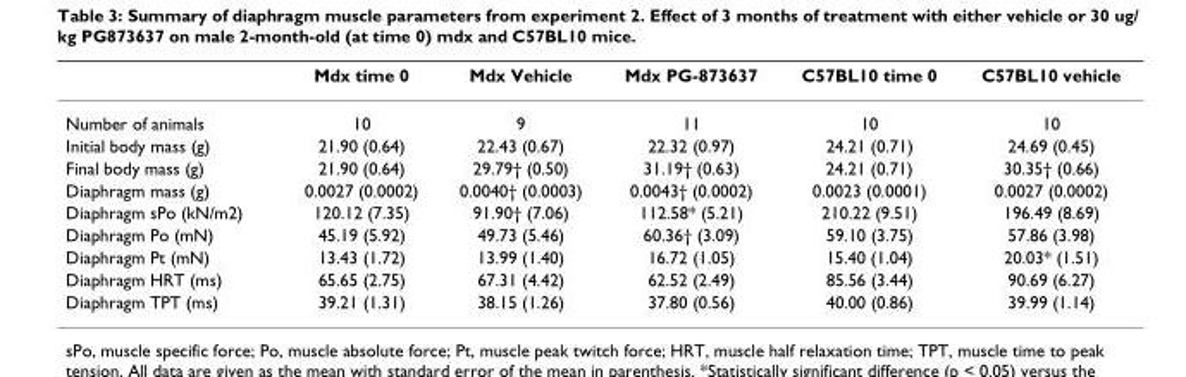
<table><thead><tr><td></td><td>Mdx time 0</td><td>Mdx Vehicle</td><td>Mdx PG-873637</td><td>C57BL10 time 0</td><td>C57BL10 vehicle</td></tr></thead><tbody><tr><td>Number of animals</td><td>10</td><td>9</td><td>11</td><td>10</td><td>10</td></tr><tr><td>Initial body mass (g)</td><td>21.90 (0.64)</td><td>22.43 (0.67)</td><td>22.32 (0.97)</td><td>24.21 (0.71)</td><td>24.69 (0.45)</td></tr><tr><td>Final body mass (g)</td><td>21.90 (0.64)</td><td>29.79† (0.50)</td><td>31.19† (0.63)</td><td>24.21 (0.71)</td><td>30.35† (0.66)</td></tr><tr><td>Diaphragm mass (g)</td><td>0.0027 (0.0002)</td><td>0.0040† (0.0003)</td><td>0.0043† (0.0002)</td><td>0.0023 (0.0001)</td><td>0.0027 (0.0002)</td></tr><tr><td>Diaphragm sPo (kN/m2)</td><td>120.12 (7.35)</td><td>91.90† (7.06)</td><td>112.58* (5.21)</td><td>210.22 (9.51)</td><td>196.49 (8.69)</td></tr><tr><td>Diaphragm Po (mN)</td><td>45.19 (5.92)</td><td>49.73 (5.46)</td><td>60.36† (3.09)</td><td>59.10 (3.75)</td><td>57.86 (3.98)</td></tr><tr><td>Diaphragm Pt (mN)</td><td>13.43 (1.72)</td><td>13.99 (1.40)</td><td>16.72 (1.05)</td><td>15.40 (1.04)</td><td>20.03* (1.51)</td></tr><tr><td>Diaphragm HRT (ms)</td><td>65.65 (2.75)</td><td>67.31 (4.42)</td><td>62.52 (2.49)</td><td>85.56 (3.44)</td><td>90.69 (6.27)</td></tr><tr><td>Diaphragm TPT (ms)</td><td>39.21 (1.31)</td><td>38.15 (1.26)</td><td>37.80 (0.56)</td><td>40.00 (0.86)</td><td>39.99 (1.14)</td></tr></tbody></table>